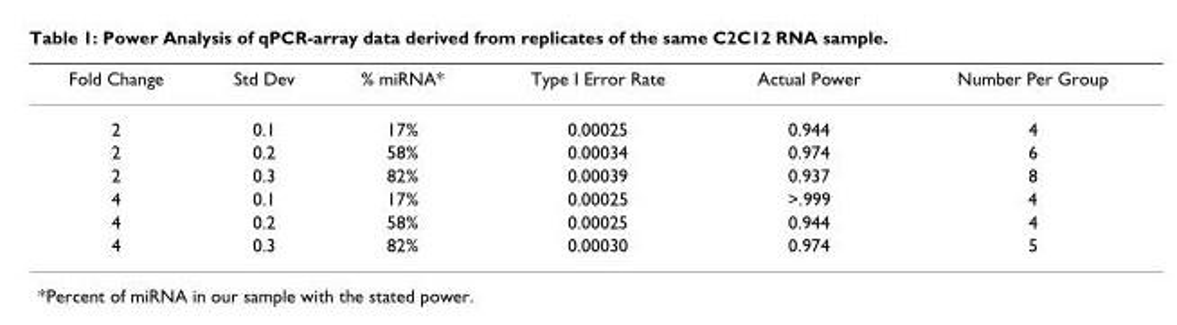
<table><thead><tr><td>Fold Change</td><td>Std Dev</td><td>% miRNA*</td><td>Type I Error Rate</td><td>Actual Power</td><td>Number Per Group</td></tr></thead><tbody><tr><td>2</td><td>0.1</td><td>17%</td><td>0.00025</td><td>0.944</td><td>4</td></tr><tr><td>2</td><td>0.2</td><td>58%</td><td>0.00034</td><td>0.974</td><td>6</td></tr><tr><td>2</td><td>0.3</td><td>82%</td><td>0.00039</td><td>0.937</td><td>8</td></tr><tr><td>4</td><td>0.1</td><td>17%</td><td>0.00025</td><td>&gt;.999</td><td>4</td></tr><tr><td>4</td><td>0.2</td><td>58%</td><td>0.00025</td><td>0.944</td><td>4</td></tr><tr><td>4</td><td>0.3</td><td>82%</td><td>0.00030</td><td>0.974</td><td>5</td></tr></tbody></table>